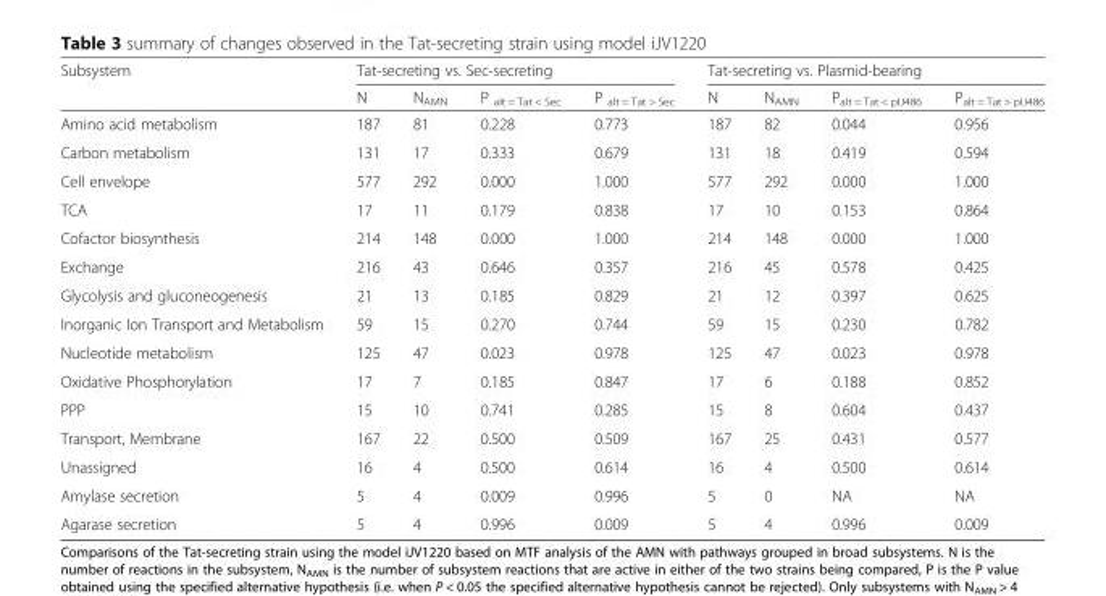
<table><thead><tr><td rowspan="2">Subsystem</td><td colspan="4">Tat-secreting vs. Sec-secreting</td><td colspan="4">Tat-secreting vs. Plasmid-bearing</td></tr><tr><td>N</td><td>N<sub>AMN</sub></td><td>P <sub>alt = Tat &lt; Sec</sub></td><td>P <sub>alt = Tat &gt; Sec</sub></td><td>N</td><td>N<sub>AMN</sub></td><td>P<sub>alt = Tat &lt; pIJ486</sub></td><td>P<sub>alt = Tat &gt; pIJ486</sub></td></tr></thead><tbody><tr><td>Amino acid metabolism</td><td>187</td><td>81</td><td>0.228</td><td>0.773</td><td>187</td><td>82</td><td>0.044</td><td>0.956</td></tr><tr><td>Carbon metabolism</td><td>131</td><td>17</td><td>0.333</td><td>0.679</td><td>131</td><td>18</td><td>0.419</td><td>0.594</td></tr><tr><td>Cell envelope</td><td>577</td><td>292</td><td>0.000</td><td>1.000</td><td>577</td><td>292</td><td>0.000</td><td>1.000</td></tr><tr><td>TCA</td><td>17</td><td>11</td><td>0.179</td><td>0.838</td><td>17</td><td>10</td><td>0.153</td><td>0.864</td></tr><tr><td>Cofactor biosynthesis</td><td>214</td><td>148</td><td>0.000</td><td>1.000</td><td>214</td><td>148</td><td>0.000</td><td>1.000</td></tr><tr><td>Exchange</td><td>216</td><td>43</td><td>0.646</td><td>0.357</td><td>216</td><td>45</td><td>0.578</td><td>0.425</td></tr><tr><td>Glycolysis and gluconeogenesis</td><td>21</td><td>13</td><td>0.185</td><td>0.829</td><td>21</td><td>12</td><td>0.397</td><td>0.625</td></tr><tr><td>Inorganic Ion Transport and Metabolism</td><td>59</td><td>15</td><td>0.270</td><td>0.744</td><td>59</td><td>15</td><td>0.230</td><td>0.782</td></tr><tr><td>Nucleotide metabolism</td><td>125</td><td>47</td><td>0.023</td><td>0.978</td><td>125</td><td>47</td><td>0.023</td><td>0.978</td></tr><tr><td>Oxidative Phosphorylation</td><td>17</td><td>7</td><td>0.185</td><td>0.847</td><td>17</td><td>6</td><td>0.188</td><td>0.852</td></tr><tr><td>PPP</td><td>15</td><td>10</td><td>0.741</td><td>0.285</td><td>15</td><td>8</td><td>0.604</td><td>0.437</td></tr><tr><td>Transport, Membrane</td><td>167</td><td>22</td><td>0.500</td><td>0.509</td><td>167</td><td>25</td><td>0.431</td><td>0.577</td></tr><tr><td>Unassigned</td><td>16</td><td>4</td><td>0.500</td><td>0.614</td><td>16</td><td>4</td><td>0.500</td><td>0.614</td></tr><tr><td>Amylase secretion</td><td>5</td><td>4</td><td>0.009</td><td>0.996</td><td>5</td><td>0</td><td>NA</td><td>NA</td></tr><tr><td>Agarase secretion</td><td>5</td><td>4</td><td>0.996</td><td>0.009</td><td>5</td><td>4</td><td>0.996</td><td>0.009</td></tr></tbody></table>